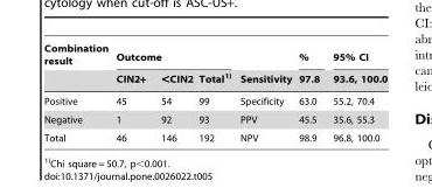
<table><thead><tr><td rowspan="2">Combination result</td><td colspan="3">Outcome</td><td rowspan="2">Sensitivity</td><td rowspan="2">% 97.8</td><td rowspan="2">95% CI 93.6, 100.0</td></tr><tr><td>CIN2+</td><td>&lt;CIN2</td><td>Total1)</td></tr></thead><tbody><tr><td>Positive</td><td>45</td><td>54</td><td>99</td><td>Specificity</td><td>63.0</td><td>55.2, 70.4</td></tr><tr><td>Negative</td><td>1</td><td>92</td><td>93</td><td>PPV</td><td>45.5</td><td>35.6, 55.3</td></tr><tr><td>Total</td><td>46</td><td>146</td><td>192</td><td>NPV</td><td>98.9</td><td>96.8, 100.0</td></tr></tbody></table>